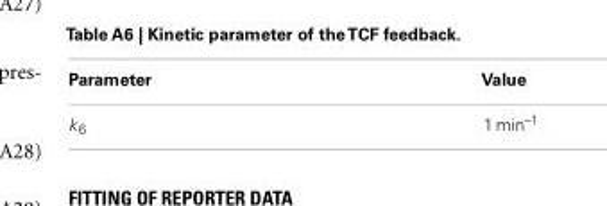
<table><thead><tr><td>Parameter</td><td>Value</td></tr></thead><tbody><tr><td>k<sub>6</sub></td><td>1 min<sup>–1</sup></td></tr></tbody></table>